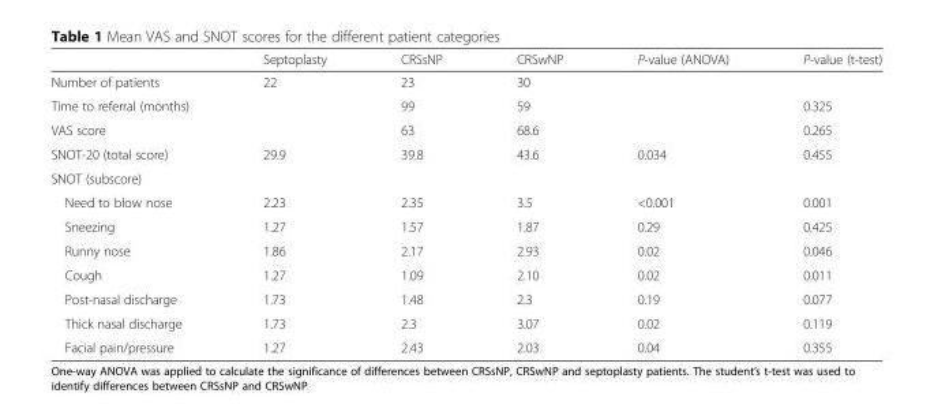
<table><thead><tr><td></td><td>Septoplasty</td><td>CRSsNP</td><td>CRSwNP</td><td>P-value (ANOVA)</td><td>P-value (t-test)</td></tr></thead><tbody><tr><td>Number of patients</td><td>22</td><td>23</td><td>30</td><td></td><td></td></tr><tr><td>Time to referral (months)</td><td></td><td>99</td><td>59</td><td></td><td>0.325</td></tr><tr><td>VAS score</td><td></td><td>63</td><td>68.6</td><td></td><td>0.265</td></tr><tr><td>SNOT-20 (total score)</td><td>29.9</td><td>39.8</td><td>43.6</td><td>0.034</td><td>0.455</td></tr><tr><td colspan="6">SNOT (subscore)</td></tr><tr><td>Need to blow nose</td><td>2.23</td><td>2.35</td><td>3.5</td><td>&lt;0.001</td><td>0.001</td></tr><tr><td>Sneezing</td><td>1.27</td><td>1.57</td><td>1.87</td><td>0.29</td><td>0.425</td></tr><tr><td>Runny nose</td><td>1.86</td><td>2.17</td><td>2.93</td><td>0.02</td><td>0.046</td></tr><tr><td>Cough</td><td>1.27</td><td>1.09</td><td>2.10</td><td>0.02</td><td>0.011</td></tr><tr><td>Post-nasal discharge</td><td>1.73</td><td>1.48</td><td>2.3</td><td>0.19</td><td>0.077</td></tr><tr><td>Thick nasal discharge</td><td>1.73</td><td>2.3</td><td>3.07</td><td>0.02</td><td>0.119</td></tr><tr><td>Facial pain/pressure</td><td>1.27</td><td>2.43</td><td>2.03</td><td>0.04</td><td>0.355</td></tr></tbody></table>